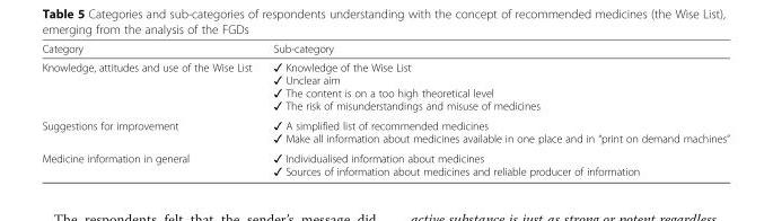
<table><thead><tr><td>Category</td><td>Sub-category</td></tr></thead><tbody><tr><td>Knowledge, attitudes and use of the Wise List</td><td>✓ Knowledge of the Wise List ✓ Unclear aim ✓ The content is on a too high theoretical level ✓ The risk of misunderstandings and misuse of medicines</td></tr><tr><td>Suggestions for improvement</td><td>✓ A simplified list of recommended medicines ✓ Make all information about medicines available in one place and in “print on demand machines”</td></tr><tr><td>Medicine information in general</td><td>✓ Individualised information about medicines ✓ Sources of information about medicines and reliable producer of information</td></tr></tbody></table>